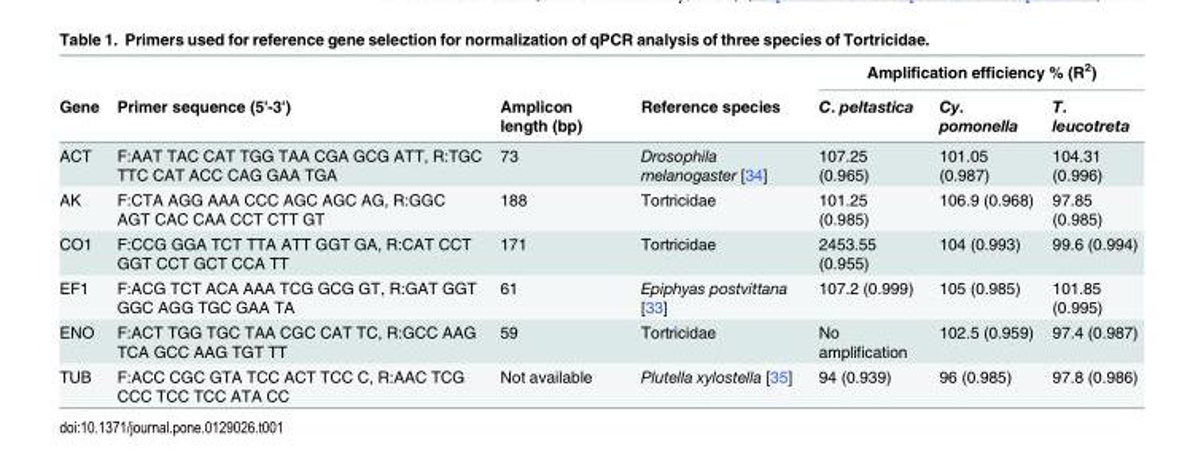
<table><thead><tr><td rowspan="2">Gene</td><td rowspan="2">Primer sequence (5&#x27;-3&#x27;)</td><td rowspan="2">Amplicon length (bp)</td><td rowspan="2">Reference species</td><td colspan="3">Amplification efficiency % (R<sup>2</sup>)</td></tr><tr><td>C. peltastica</td><td>Cy. pomonella</td><td>T. leucotreta</td></tr></thead><tbody><tr><td>ACT</td><td>F:AAT TAC CAT TGG TAA CGA GCG ATT, R:TGC TTC CAT ACC CAG GAA TGA</td><td>73</td><td>Drosophila melanogaster [34]</td><td>107.25 (0.965)</td><td>101.05 (0.987)</td><td>104.31 (0.996)</td></tr><tr><td>AK</td><td>F:CTA AGG AAA CCC AGC AGC AG, R:GGC AGT CAC CAA CCT CTT GT</td><td>188</td><td>Tortricidae</td><td>101.25 (0.985)</td><td>106.9 (0.968)</td><td>97.85 (0.985)</td></tr><tr><td>CO1</td><td>F:CCG GGA TCT TTA ATT GGT GA, R:CAT CCT GGT CCT GCT CCA TT</td><td>171</td><td>Tortricidae</td><td>2453.55 (0.955)</td><td>104 (0.993)</td><td>99.6 (0.994)</td></tr><tr><td>EF1</td><td>F:ACG TCT ACA AAA TCG GCG GT, R:GAT GGT GGC AGG TGC GAA TA</td><td>61</td><td>Epiphyas postvittana [33]</td><td>107.2 (0.999)</td><td>105 (0.985)</td><td>101.85 (0.995)</td></tr><tr><td>ENO</td><td>F:ACT TGG TGC TAA CGC CAT TC, R:GCC AAG TCA GCC AAG TGT TT</td><td>59</td><td>Tortricidae</td><td>No amplification</td><td>102.5 (0.959)</td><td>97.4 (0.987)</td></tr><tr><td>TUB</td><td>F:ACC CGC GTA TCC ACT TCC C, R:AAC TCG CCC TCC TCC ATA CC</td><td>Not available</td><td>Plutella xylostella [35]</td><td>94 (0.939)</td><td>96 (0.985)</td><td>97.8 (0.986)</td></tr></tbody></table>